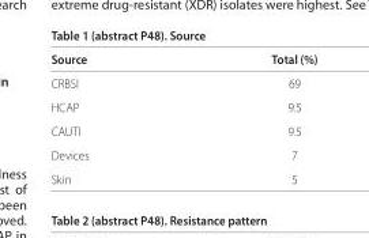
<table><thead><tr><td>Source</td><td>Total (%)</td></tr></thead><tbody><tr><td>CRBSI</td><td>69</td></tr><tr><td>HCAP</td><td>9.5</td></tr><tr><td>CAUTI</td><td>9.5</td></tr><tr><td>Devices</td><td>7</td></tr><tr><td>Skin</td><td>5</td></tr></tbody></table>